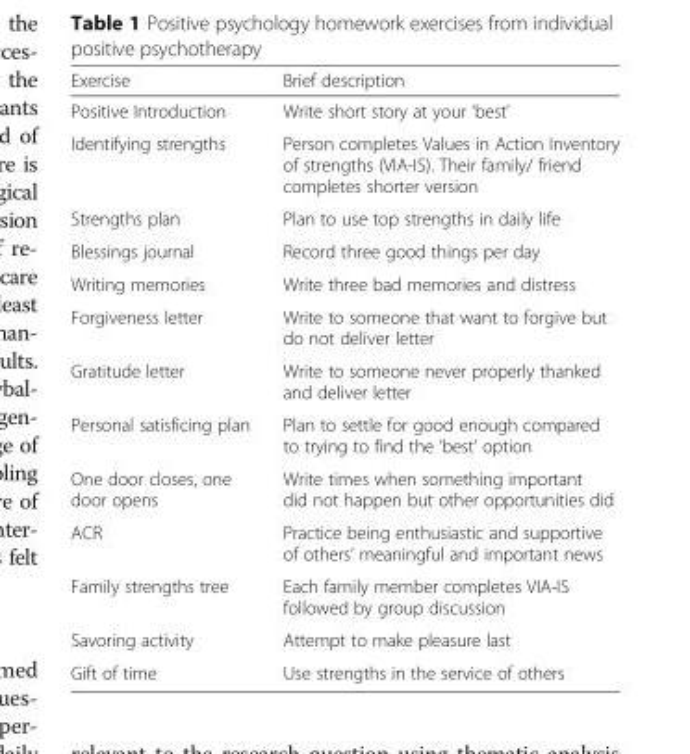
<table><thead><tr><td>Exercise</td><td>Brief description</td></tr></thead><tbody><tr><td>Positive Introduction</td><td>Write short story at your ‘best’</td></tr><tr><td>Identifying strengths</td><td>Person completes Values in Action Inventory of strengths (VIA-IS). Their family/ friend completes shorter version</td></tr><tr><td>Strengths plan</td><td>Plan to use top strengths in daily life</td></tr><tr><td>Blessings journal</td><td>Record three good things per day</td></tr><tr><td>Writing memories</td><td>Write three bad memories and distress</td></tr><tr><td>Forgiveness letter</td><td>Write to someone that want to forgive but do not deliver letter</td></tr><tr><td>Gratitude letter</td><td>Write to someone never properly thanked and deliver letter</td></tr><tr><td>Personal satisficing plan</td><td>Plan to settle for good enough compared to trying to find the ‘best’ option</td></tr><tr><td>One door closes, one door opens</td><td>Write times when something important did not happen but other opportunities did</td></tr><tr><td>ACR</td><td>Practice being enthusiastic and supportive of others’ meaningful and important news</td></tr><tr><td>Family strengths tree</td><td>Each family member completes VIA-IS followed by group discussion</td></tr><tr><td>Savoring activity</td><td>Attempt to make pleasure last</td></tr><tr><td>Gift of time</td><td>Use strengths in the service of others</td></tr></tbody></table>